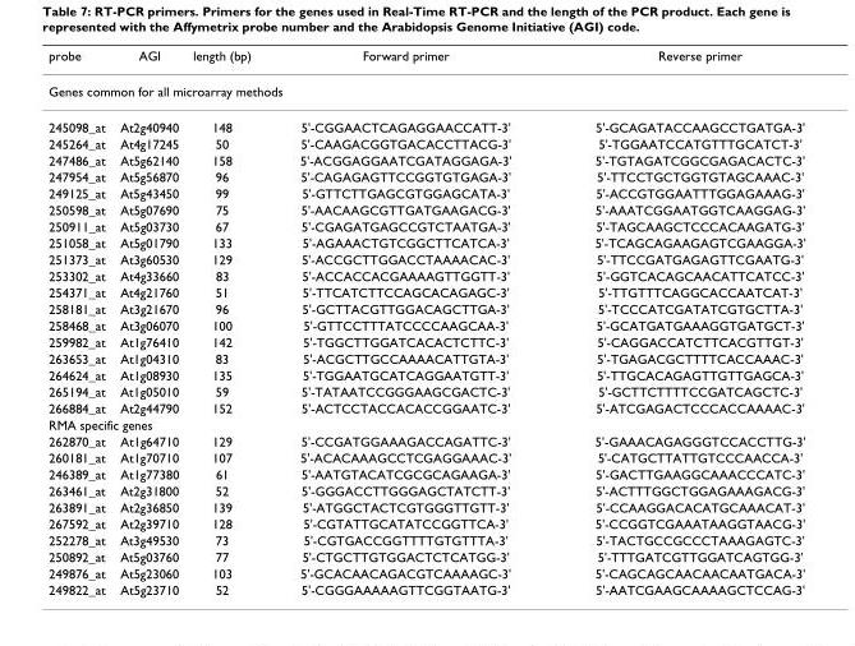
<table><thead><tr><td>probe</td><td>AGI</td><td>length (bp)</td><td>Forward primer</td><td>Reverse primer</td></tr></thead><tbody><tr><td colspan="5">Genes common for all microarray methods</td></tr><tr><td>245098_at</td><td>At2g40940</td><td>148</td><td>5&#x27;-CGGAACTCAGAGGAACCATT-3&#x27;</td><td>5&#x27;-GCAGATACCAAGCCTGATGA-3&#x27;</td></tr><tr><td>245264_at</td><td>At4g17245</td><td>50</td><td>5&#x27;-CAAGACGGTGACACCTTACG-3&#x27;</td><td>5&#x27;-TGGAATCCATGTTTGCATCT-3&#x27;</td></tr><tr><td>247486_at</td><td>At5g62140</td><td>158</td><td>5&#x27;-ACGGAGGAATCGATAGGAGA-3&#x27;</td><td>5&#x27;-TGTAGATCGGCGAGACACTC-3&#x27;</td></tr><tr><td>247954_at</td><td>At5g56870</td><td>96</td><td>5&#x27;-CAGAGAGTTCCGGTGTGAGA-3&#x27;</td><td>5&#x27;-TTCCTGCTGGTGTAGCAAAC-3&#x27;</td></tr><tr><td>249125_at</td><td>At5g43450</td><td>99</td><td>5&#x27;-GTTCTTGAGCGTGGAGCATA-3&#x27;</td><td>5&#x27;-ACCGTGGAATTTGGAGAAAG-3&#x27;</td></tr><tr><td>250598_at</td><td>At5g07690</td><td>75</td><td>5&#x27;-AACAAGCGTTGATGAAGACG-3&#x27;</td><td>5&#x27;-AAATCGGAATGGTCAAGGAG-3&#x27;</td></tr><tr><td>250911_at</td><td>At5g03730</td><td>67</td><td>5&#x27;-CGAGATGAGCCGTCTAATGA-3&#x27;</td><td>5&#x27;-TAGCAAGCTCCCACAAGATG-3&#x27;</td></tr><tr><td>251058_at</td><td>At5g01790</td><td>133</td><td>5&#x27;-AGAAACTGTCGGCTTCATCA-3&#x27;</td><td>5&#x27;-TCAGCAGAAGAGTCGAAGGA-3&#x27;</td></tr><tr><td>251373_at</td><td>At3g60530</td><td>129</td><td>5&#x27;-ACCGCTTGGACCTAAAACAC-3&#x27;</td><td>5&#x27;-TTCCGATGAGAGTTCGAATG-3&#x27;</td></tr><tr><td>253302_at</td><td>At4g33660</td><td>83</td><td>5&#x27;-ACCACCACGAAAAGTTGGTT-3&#x27;</td><td>5&#x27;-GGTCACAGCAACATTCATCC-3&#x27;</td></tr><tr><td>254371_at</td><td>At4g21760</td><td>51</td><td>5&#x27;-TTCATCTTCCAGCACAGAGC-3&#x27;</td><td>5&#x27;-TTGTTTCAGGCACCAATCAT-3&#x27;</td></tr><tr><td>258181_at</td><td>At3g21670</td><td>96</td><td>5&#x27;-GCTTACGTTGGACAGCTTGA-3&#x27;</td><td>5&#x27;-TCCCATCGATATCGTGCTTA-3&#x27;</td></tr><tr><td>258468_at</td><td>At3g06070</td><td>100</td><td>5&#x27;-GTTCCTTTATCCCCAAGCAA-3&#x27;</td><td>5&#x27;-GCATGATGAAAGGTGATGCT-3&#x27;</td></tr><tr><td>259982_at</td><td>At1g76410</td><td>142</td><td>5&#x27;-TGGCTTGGATCACACTCTTC-3&#x27;</td><td>5&#x27;-CAGGACCATCTTCACGTTGT-3&#x27;</td></tr><tr><td>263653_at</td><td>At1g04310</td><td>83</td><td>5&#x27;-ACGCTTGCCAAAACATTGTA-3&#x27;</td><td>5&#x27;-TGAGACGCTTTTCACCAAAC-3&#x27;</td></tr><tr><td>264624_at</td><td>At1g08930</td><td>135</td><td>5&#x27;-TGGAATGCATCAGGAATGTT-3&#x27;</td><td>5&#x27;-TTGCACAGAGTTGTTGAGCA-3&#x27;</td></tr><tr><td>265194_at</td><td>At1g05010</td><td>59</td><td>5&#x27;-TATAATCCGGGAAGCGACTC-3&#x27;</td><td>5&#x27;-GCTTCTTTTCCGATCAGCTC-3&#x27;</td></tr><tr><td>266884_at</td><td>At2g44790</td><td>152</td><td>5&#x27;-ACTCCTACCACACCGGAATC-3&#x27;</td><td>5&#x27;-ATCGAGACTCCCACCAAAAC-3&#x27;</td></tr><tr><td colspan="5">RMA specific genes</td></tr><tr><td>262870_at</td><td>At1g64710</td><td>129</td><td>5&#x27;-CCGATGGAAAGACCAGATTC-3&#x27;</td><td>5&#x27;-GAAACAGAGGGTCCACCTTG-3&#x27;</td></tr><tr><td>260181_at</td><td>At1g70710</td><td>107</td><td>5&#x27;-ACACAAAGCCTCGAGGAAAC-3&#x27;</td><td>5&#x27;-CATGCTTATTGTCCCAACCA-3&#x27;</td></tr><tr><td>246389_at</td><td>At1g77380</td><td>61</td><td>5&#x27;-AATGTACATCGCGCAGAAGA-3&#x27;</td><td>5&#x27;-GACTTGAAGGCAAACCCATC-3&#x27;</td></tr><tr><td>263461_at</td><td>At2g31800</td><td>52</td><td>5&#x27;-GGGACCTTGGGAGCTATCTT-3&#x27;</td><td>5&#x27;-ACTTTGGCTGGAGAAAGACG-3&#x27;</td></tr><tr><td>263891_at</td><td>At2g36850</td><td>139</td><td>5&#x27;-ATGGCTACTCGTGGGTTGTT-3&#x27;</td><td>5&#x27;-CCAAGGACACATGCAAACAT-3&#x27;</td></tr><tr><td>267592_at</td><td>At2g39710</td><td>128</td><td>5&#x27;-CGTATTGCATATCCGGTTCA-3&#x27;</td><td>5&#x27;-CCGGTCGAAATAAGGTAACG-3&#x27;</td></tr><tr><td>252278_at</td><td>At3g49530</td><td>73</td><td>5&#x27;-CGTGACCGGTTTTGTGTTTA-3&#x27;</td><td>5&#x27;-TACTGCCGCCCTAAAGAGTC-3&#x27;</td></tr><tr><td>250892_at</td><td>At5g03760</td><td>77</td><td>5&#x27;-CTGCTTGTGGACTCTCATGG-3&#x27;</td><td>5&#x27;-TTTGATCGTTGGATCAGTGG-3&#x27;</td></tr><tr><td>249876_at</td><td>At5g23060</td><td>103</td><td>5&#x27;-GCACAACAGACGTCAAAAGC-3&#x27;</td><td>5&#x27;-CAGCAGCAACAACAATGACA-3&#x27;</td></tr><tr><td>249822_at</td><td>At5g23710</td><td>52</td><td>5&#x27;-CGGGAAAAAGTTCGGTAATG-3&#x27;</td><td>5&#x27;-AATCGAAGCAAAAGCTCCAG-3&#x27;</td></tr></tbody></table>